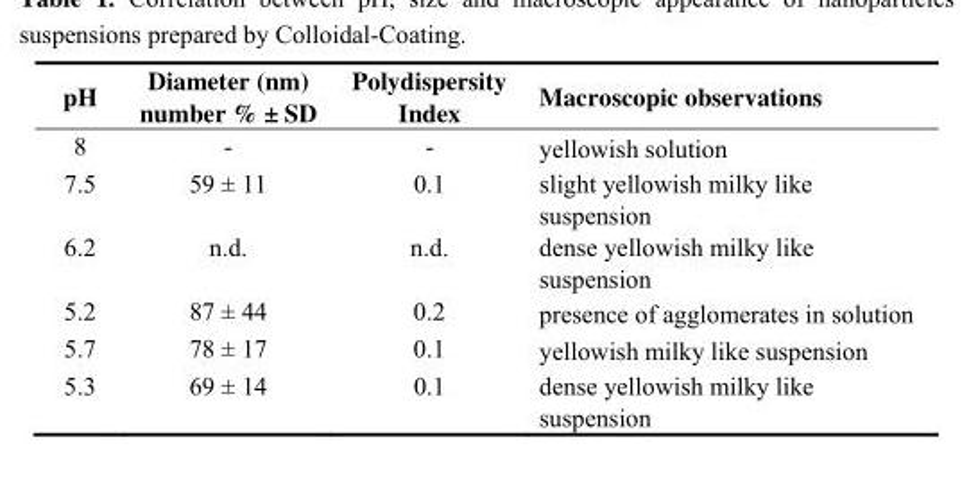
<table><thead><tr><td>pH</td><td>Diameter (nm) number % ± SD</td><td>Polydispersity Index</td><td>Macroscopic observations</td></tr></thead><tbody><tr><td>8</td><td>-</td><td>-</td><td>yellowish solution</td></tr><tr><td>7.5</td><td>59 ± 11</td><td>0.1</td><td>slight yellowish milky like suspension</td></tr><tr><td>6.2</td><td>n.d.</td><td>n.d.</td><td>dense yellowish milky like suspension</td></tr><tr><td>5.2</td><td>87 ± 44</td><td>0.2</td><td>presence of agglomerates in solution</td></tr><tr><td>5.7</td><td>78 ± 17</td><td>0.1</td><td>yellowish milky like suspension</td></tr><tr><td>5.3</td><td>69 ± 14</td><td>0.1</td><td>dense yellowish milky like suspension</td></tr></tbody></table>